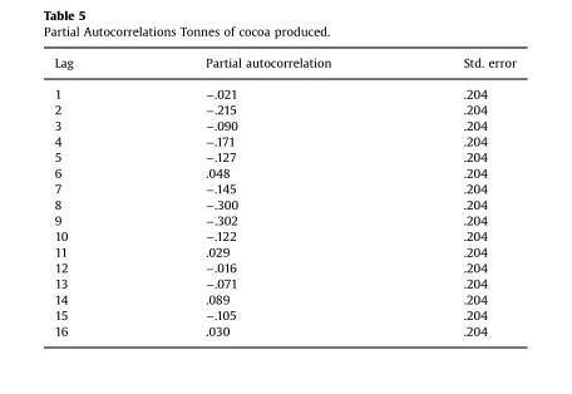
<table><thead><tr><td>Lag</td><td>Partial autocorrelation</td><td>Std. error</td></tr></thead><tbody><tr><td>1</td><td>−.021</td><td>.204</td></tr><tr><td>2</td><td>−.215</td><td>.204</td></tr><tr><td>3</td><td>−.090</td><td>.204</td></tr><tr><td>4</td><td>−.171</td><td>.204</td></tr><tr><td>5</td><td>−.127</td><td>.204</td></tr><tr><td>6</td><td>.048</td><td>.204</td></tr><tr><td>7</td><td>−.145</td><td>.204</td></tr><tr><td>8</td><td>−.300</td><td>.204</td></tr><tr><td>9</td><td>−.302</td><td>.204</td></tr><tr><td>10</td><td>−.122</td><td>.204</td></tr><tr><td>11</td><td>.029</td><td>.204</td></tr><tr><td>12</td><td>−.016</td><td>.204</td></tr><tr><td>13</td><td>−.071</td><td>.204</td></tr><tr><td>14</td><td>.089</td><td>.204</td></tr><tr><td>15</td><td>−.105</td><td>.204</td></tr><tr><td>16</td><td>.030</td><td>.204</td></tr></tbody></table>